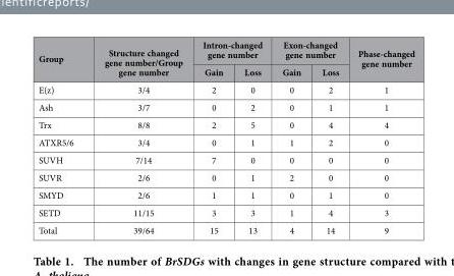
<table><thead><tr><td rowspan="2">Group</td><td rowspan="2">Structure changed gene number/Group gene number</td><td colspan="2">Intron-changed gene number</td><td colspan="2">Exon-changed gene number</td><td rowspan="2">Phase-changed gene number</td></tr><tr><td>Gain</td><td>Loss</td><td>Gain</td><td>Loss</td></tr></thead><tbody><tr><td>E(z)</td><td>3/4</td><td>2</td><td>0</td><td>0</td><td>2</td><td>1</td></tr><tr><td>Ash</td><td>3/7</td><td>0</td><td>2</td><td>0</td><td>1</td><td>1</td></tr><tr><td>Trx</td><td>8/8</td><td>2</td><td>5</td><td>0</td><td>4</td><td>4</td></tr><tr><td>ATXR5/6</td><td>3/4</td><td>0</td><td>1</td><td>1</td><td>2</td><td>0</td></tr><tr><td>SUVH</td><td>7/14</td><td>7</td><td>0</td><td>0</td><td>0</td><td>0</td></tr><tr><td>SUVR</td><td>2/6</td><td>0</td><td>1</td><td>2</td><td>0</td><td>0</td></tr><tr><td>SMYD</td><td>2/6</td><td>1</td><td>1</td><td>0</td><td>1</td><td>0</td></tr><tr><td>SETD</td><td>11/15</td><td>3</td><td>3</td><td>1</td><td>4</td><td>3</td></tr><tr><td>Total</td><td>39/64</td><td>15</td><td>13</td><td>4</td><td>14</td><td>9</td></tr></tbody></table>